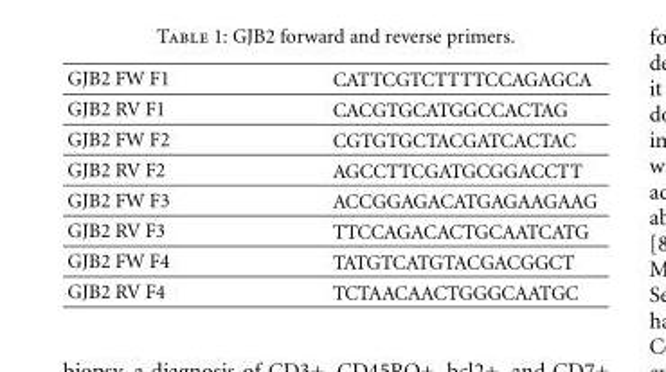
<table><tbody><tr><td>GJB2 FW F1</td><td>CATTCGTCTTTTCCAGAGCA</td></tr><tr><td>GJB2 RV F1</td><td>CACGTGCATGGCCACTAG</td></tr><tr><td>GJB2 FW F2</td><td>CGTGTGCTACGATCACTAC</td></tr><tr><td>GJB2 RV F2</td><td>AGCCTTCGATGCGGACCTT</td></tr><tr><td>GJB2 FW F3</td><td>ACCGGAGACATGAGAAGAAG</td></tr><tr><td>GJB2 RV F3</td><td>TTCCAGACACTGCAATCATG</td></tr><tr><td>GJB2 FW F4</td><td>TATGTCATGTACGACGGCT</td></tr><tr><td>GJB2 RV F4</td><td>TCTAACAACTGGGCAATGC</td></tr></tbody></table>